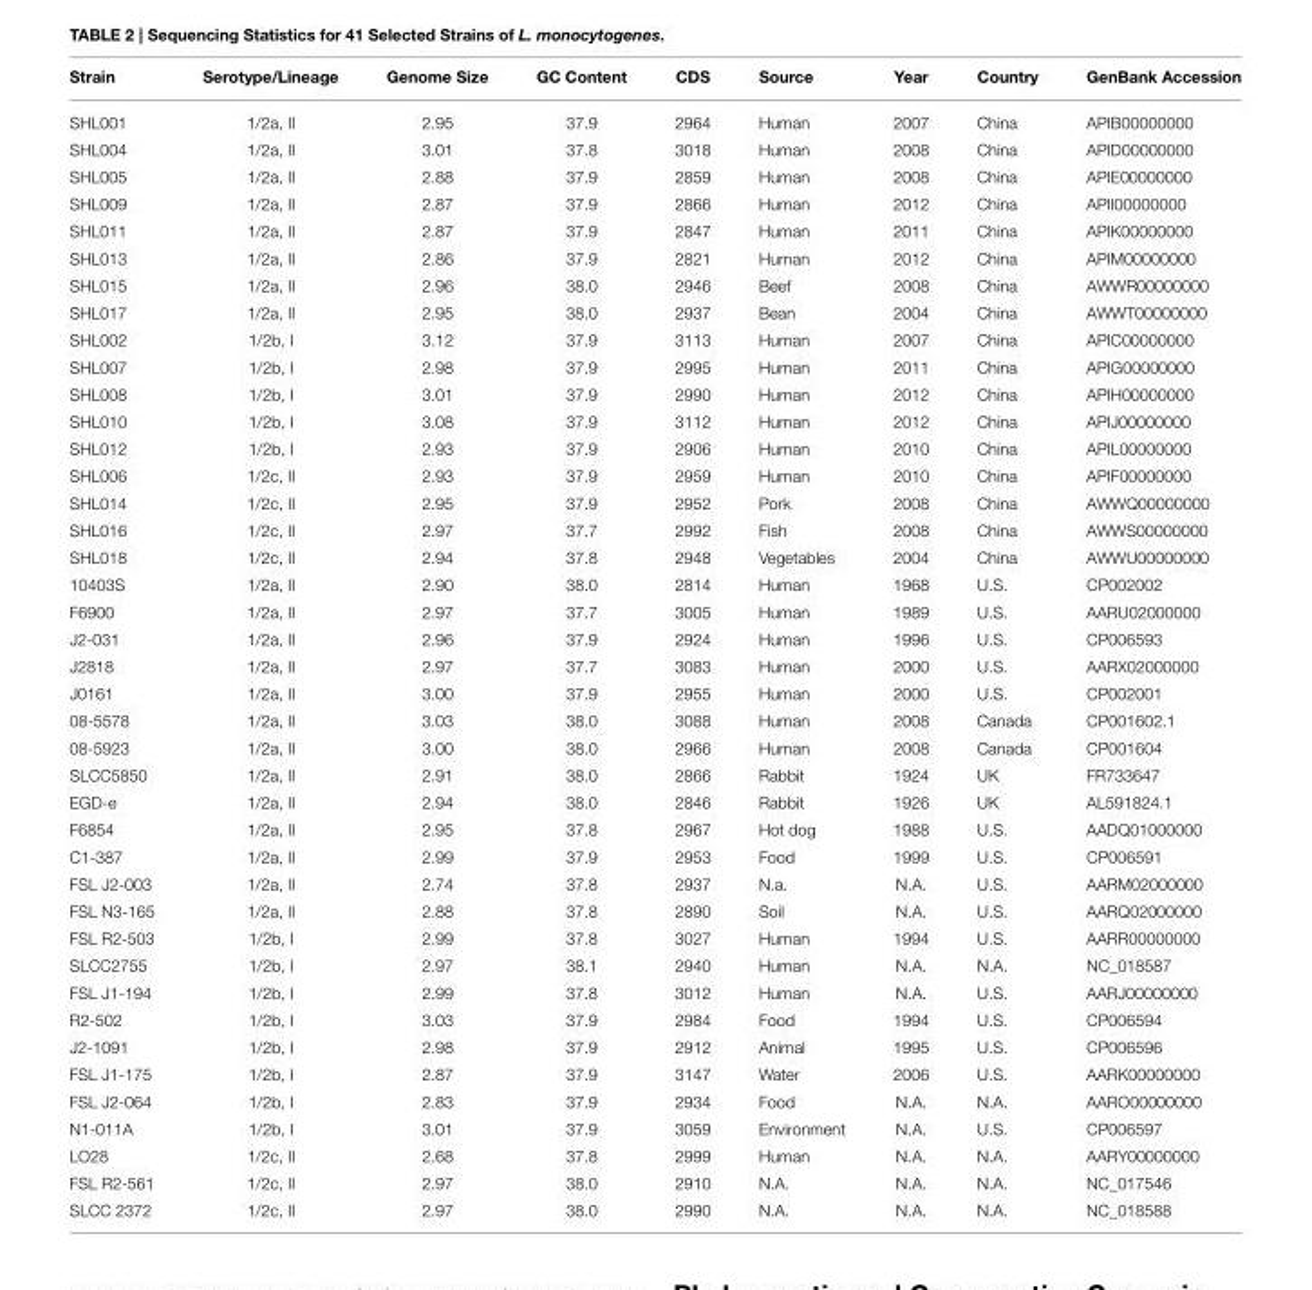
<table><thead><tr><td>Strain</td><td>Serotype/Lineage</td><td>Genome Size</td><td>GC Content</td><td>CDS</td><td>Source</td><td>Year</td><td>Country</td><td>GenBank Accession</td></tr></thead><tbody><tr><td>SHL001</td><td>1/2a, II</td><td>2.95</td><td>37.9</td><td>2964</td><td>Human</td><td>2007</td><td>China</td><td>APIB00000000</td></tr><tr><td>SHL004</td><td>1/2a, II</td><td>3.01</td><td>37.8</td><td>3018</td><td>Human</td><td>2008</td><td>China</td><td>APID00000000</td></tr><tr><td>SHL005</td><td>1/2a, II</td><td>2.88</td><td>37.9</td><td>2859</td><td>Human</td><td>2008</td><td>China</td><td>APIE00000000</td></tr><tr><td>SHL009</td><td>1/2a, II</td><td>2.87</td><td>37.9</td><td>2866</td><td>Human</td><td>2012</td><td>China</td><td>APII00000000</td></tr><tr><td>SHL011</td><td>1/2a, II</td><td>2.87</td><td>37.9</td><td>2847</td><td>Human</td><td>2011</td><td>China</td><td>APIK00000000</td></tr><tr><td>SHL013</td><td>1/2a, II</td><td>2.86</td><td>37.9</td><td>2821</td><td>Human</td><td>2012</td><td>China</td><td>APIM00000000</td></tr><tr><td>SHL015</td><td>1/2a, II</td><td>2.96</td><td>38.0</td><td>2946</td><td>Beef</td><td>2008</td><td>China</td><td>AWWR00000000</td></tr><tr><td>SHL017</td><td>1/2a, II</td><td>2.95</td><td>38.0</td><td>2937</td><td>Bean</td><td>2004</td><td>China</td><td>AWWT00000000</td></tr><tr><td>SHL002</td><td>1/2b, I</td><td>3.12</td><td>37.9</td><td>3113</td><td>Human</td><td>2007</td><td>China</td><td>APIC00000000</td></tr><tr><td>SHL007</td><td>1/2b, I</td><td>2.98</td><td>37.9</td><td>2995</td><td>Human</td><td>2011</td><td>China</td><td>APIG00000000</td></tr><tr><td>SHL008</td><td>1/2b, I</td><td>3.01</td><td>37.9</td><td>2990</td><td>Human</td><td>2012</td><td>China</td><td>APIH00000000</td></tr><tr><td>SHL010</td><td>1/2b, I</td><td>3.08</td><td>37.9</td><td>3112</td><td>Human</td><td>2012</td><td>China</td><td>APIJ00000000</td></tr><tr><td>SHL012</td><td>1/2b, I</td><td>2.93</td><td>37.9</td><td>2906</td><td>Human</td><td>2010</td><td>China</td><td>APIL00000000</td></tr><tr><td>SHL006</td><td>1/2c, II</td><td>2.93</td><td>37.9</td><td>2959</td><td>Human</td><td>2010</td><td>China</td><td>APIF00000000</td></tr><tr><td>SHL014</td><td>1/2c, II</td><td>2.95</td><td>37.9</td><td>2952</td><td>Pork</td><td>2008</td><td>China</td><td>AWWQ00000000</td></tr><tr><td>SHL016</td><td>1/2c, II</td><td>2.97</td><td>37.7</td><td>2992</td><td>Fish</td><td>2008</td><td>China</td><td>AWWS00000000</td></tr><tr><td>SHL018</td><td>1/2c, II</td><td>2.94</td><td>37.8</td><td>2948</td><td>Vegetables</td><td>2004</td><td>China</td><td>AWWU00000000</td></tr><tr><td>10403S</td><td>1/2a, II</td><td>2.90</td><td>38.0</td><td>2814</td><td>Human</td><td>1968</td><td>U.S.</td><td>CP002002</td></tr><tr><td>F6900</td><td>1/2a, II</td><td>2.97</td><td>37.7</td><td>3005</td><td>Human</td><td>1989</td><td>U.S.</td><td>AARU02000000</td></tr><tr><td>J2-031</td><td>1/2a, II</td><td>2.96</td><td>37.9</td><td>2924</td><td>Human</td><td>1996</td><td>U.S.</td><td>CP006593</td></tr><tr><td>J2818</td><td>1/2a, II</td><td>2.97</td><td>37.7</td><td>3083</td><td>Human</td><td>2000</td><td>U.S.</td><td>AARX02000000</td></tr><tr><td>J0161</td><td>1/2a, II</td><td>3.00</td><td>37.9</td><td>2955</td><td>Human</td><td>2000</td><td>U.S.</td><td>CP002001</td></tr><tr><td>08-5578</td><td>1/2a, II</td><td>3.03</td><td>38.0</td><td>3088</td><td>Human</td><td>2008</td><td>Canada</td><td>CP001602.1</td></tr><tr><td>08-5923</td><td>1/2a, II</td><td>3.00</td><td>38.0</td><td>2966</td><td>Human</td><td>2008</td><td>Canada</td><td>CP001604</td></tr><tr><td>SLCC5850</td><td>1/2a, II</td><td>2.91</td><td>38.0</td><td>2866</td><td>Rabbit</td><td>1924</td><td>UK</td><td>FR733647</td></tr><tr><td>EGD-e</td><td>1/2a, II</td><td>2.94</td><td>38.0</td><td>2846</td><td>Rabbit</td><td>1926</td><td>UK</td><td>AL591824.1</td></tr><tr><td>F6854</td><td>1/2a, II</td><td>2.95</td><td>37.8</td><td>2967</td><td>Hot dog</td><td>1988</td><td>U.S.</td><td>AADQ01000000</td></tr><tr><td>C1-387</td><td>1/2a, II</td><td>2.99</td><td>37.9</td><td>2953</td><td>Food</td><td>1999</td><td>U.S.</td><td>CP006591</td></tr><tr><td>FSL J2-003</td><td>1/2a, II</td><td>2.74</td><td>37.8</td><td>2937</td><td>N.a.</td><td>N.A.</td><td>U.S.</td><td>AARM02000000</td></tr><tr><td>FSL N3-165</td><td>1/2a, II</td><td>2.88</td><td>37.8</td><td>2890</td><td>Soil</td><td>N.A.</td><td>U.S.</td><td>AARQ02000000</td></tr><tr><td>FSL R2-503</td><td>1/2b, I</td><td>2.99</td><td>37.8</td><td>3027</td><td>Human</td><td>1994</td><td>U.S.</td><td>AARR00000000</td></tr><tr><td>SLCC2755</td><td>1/2b, I</td><td>2.97</td><td>38.1</td><td>2940</td><td>Human</td><td>N.A.</td><td>N.A.</td><td>NC_018587</td></tr><tr><td>FSL J1-194</td><td>1/2b, I</td><td>2.99</td><td>37.8</td><td>3012</td><td>Human</td><td>N.A.</td><td>U.S.</td><td>AARJ00000000</td></tr><tr><td>R2-502</td><td>1/2b, I</td><td>3.03</td><td>37.9</td><td>2984</td><td>Food</td><td>1994</td><td>U.S.</td><td>CP006594</td></tr><tr><td>J2-1091</td><td>1/2b, I</td><td>2.98</td><td>37.9</td><td>2912</td><td>Animal</td><td>1995</td><td>U.S.</td><td>CP006596</td></tr><tr><td>FSL J1-175</td><td>1/2b, I</td><td>2.87</td><td>37.9</td><td>3147</td><td>Water</td><td>2006</td><td>U.S.</td><td>AARK00000000</td></tr><tr><td>FSL J2-064</td><td>1/2b, I</td><td>2.83</td><td>37.9</td><td>2934</td><td>Food</td><td>N.A.</td><td>N.A.</td><td>AARO00000000</td></tr><tr><td>N1-011A</td><td>1/2b, I</td><td>3.01</td><td>37.9</td><td>3059</td><td>Environment</td><td>N.A.</td><td>U.S.</td><td>CP006597</td></tr><tr><td>LO28</td><td>1/2c, II</td><td>2.68</td><td>37.8</td><td>2999</td><td>Human</td><td>N.A.</td><td>N.A.</td><td>AARY00000000</td></tr><tr><td>FSL R2-561</td><td>1/2c, II</td><td>2.97</td><td>38.0</td><td>2910</td><td>N.A.</td><td>N.A.</td><td>N.A.</td><td>NC_017546</td></tr><tr><td>SLCC 2372</td><td>1/2c, II</td><td>2.97</td><td>38.0</td><td>2990</td><td>N.A.</td><td>N.A.</td><td>N.A.</td><td>NC_018588</td></tr></tbody></table>